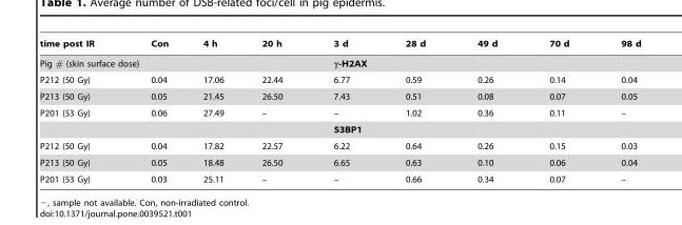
<table><thead><tr><td>time post IR</td><td>Con</td><td>4 h</td><td>20 h</td><td>3 d</td><td>28 d</td><td>49 d</td><td>70 d</td><td>98 d</td></tr></thead><tbody><tr><td>Pig # (skin surface dose)</td><td></td><td></td><td></td><td>γ-H2AX</td><td></td><td></td><td></td><td></td></tr><tr><td>P212 (50 Gy)</td><td>0.04</td><td>17.06</td><td>22.44</td><td>6.77</td><td>0.59</td><td>0.26</td><td>0.14</td><td>0.04</td></tr><tr><td>P213 (50 Gy)</td><td>0.05</td><td>21.45</td><td>26.50</td><td>7.43</td><td>0.51</td><td>0.08</td><td>0.07</td><td>0.05</td></tr><tr><td rowspan="2">P201 (53 Gy)</td><td>0.06</td><td>27.49</td><td>–</td><td>–</td><td>1.02</td><td>0.36</td><td>0.11</td><td>–</td></tr><tr><td></td><td></td><td></td><td>53BP1</td><td></td><td></td><td></td><td></td></tr><tr><td>P212 (50 Gy)</td><td>0.04</td><td>17.82</td><td>22.57</td><td>6.22</td><td>0.64</td><td>0.26</td><td>0.15</td><td>0.03</td></tr><tr><td>P213 (50 Gy)</td><td>0.05</td><td>18.48</td><td>26.50</td><td>6.65</td><td>0.63</td><td>0.10</td><td>0.06</td><td>0.04</td></tr><tr><td>P201 (53 Gy)</td><td>0.03</td><td>25.11</td><td>–</td><td>–</td><td>0.66</td><td>0.34</td><td>0.07</td><td>–</td></tr></tbody></table>